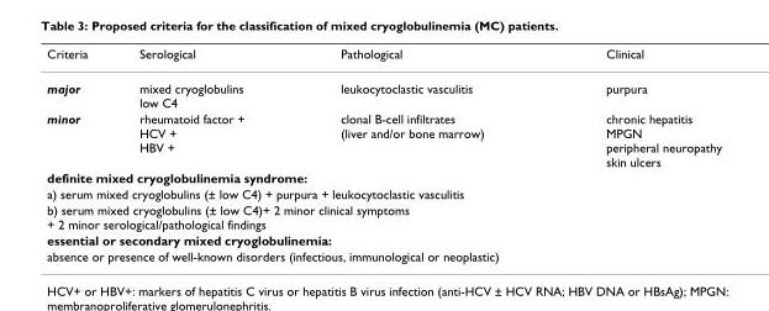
<table><thead><tr><td>Criteria</td><td>Serological</td><td>Pathological</td><td>Clinical</td></tr></thead><tbody><tr><td>major</td><td>mixed cryoglobulins low C4</td><td>leukocytoclastic vasculitis</td><td>purpura</td></tr><tr><td>minor</td><td>rheumatoid factor + HCV + HBV +</td><td>clonal B-cell infiltrates (liver and/or bone marrow)</td><td>chronic hepatitis MPGN peripheral neuropathy skin ulcers</td></tr><tr><td colspan="4">definite mixed cryoglobulinemia syndrome:</td></tr><tr><td colspan="4">a) serum mixed cryoglobulins (± low C4) + purpura + leukocytoclastic vasculitis</td></tr><tr><td colspan="4">b) serum mixed cryoglobulins (± low C4)+ 2 minor clinical symptoms + 2 minor serological/pathological findings</td></tr><tr><td colspan="4">essential or secondary mixed cryoglobulinemia:</td></tr><tr><td colspan="4">absence or presence of well-known disorders (infectious, immunological or neoplastic)</td></tr></tbody></table>